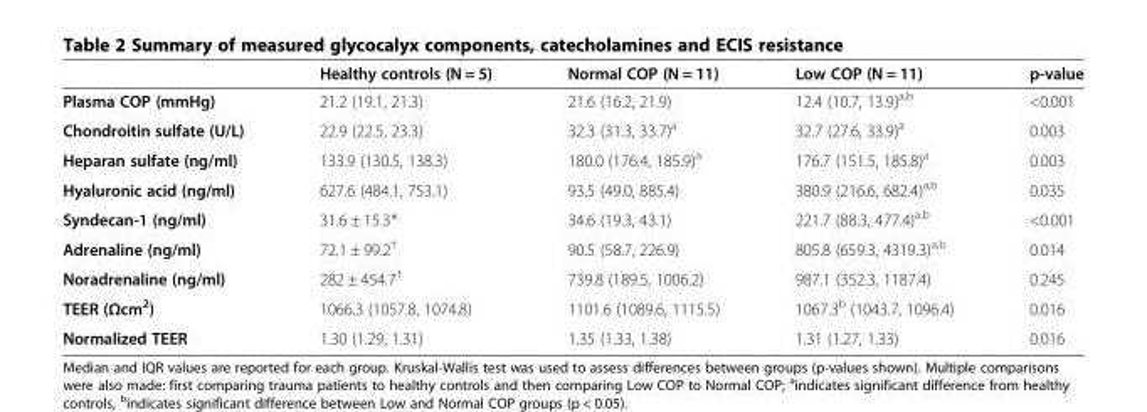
<table><thead><tr><td></td><td>Healthy controls (N = 5)</td><td>Normal COP (N = 11)</td><td>Low COP (N = 11)</td><td>p-value</td></tr></thead><tbody><tr><td>Plasma COP (mmHg)</td><td>21.2 (19.1, 21.3)</td><td>21.6 (16.2, 21.9)</td><td>12.4 (10.7, 13.9)<sup>a,b</sup></td><td>&lt;0.001</td></tr><tr><td>Chondroitin sulfate (U/L)</td><td>22.9 (22.5, 23.3)</td><td>32.3 (31.3, 33.7)<sup>a</sup></td><td>32.7 (27.6, 33.9)<sup>a</sup></td><td>0.003</td></tr><tr><td>Heparan sulfate (ng/ml)</td><td>133.9 (130.5, 138.3)</td><td>180.0 (176.4, 185.9)<sup>a</sup></td><td>176.7 (151.5, 185.8)<sup>a</sup></td><td>0.003</td></tr><tr><td>Hyaluronic acid (ng/ml)</td><td>627.6 (484.1, 753.1)</td><td>93.5 (49.0, 885.4)</td><td>380.9 (216.6, 682.4)<sup>a,b</sup></td><td>0.035</td></tr><tr><td>Syndecan-1 (ng/ml)</td><td>31.6 ± 15.3*</td><td>34.6 (19.3, 43.1)</td><td>221.7 (88.3, 477.4)<sup>a,b</sup></td><td>&lt;0.001</td></tr><tr><td>Adrenaline (ng/ml)</td><td>72.1 ± 99.2<sup>†</sup></td><td>90.5 (58.7, 226.9)</td><td>805.8 (659.3, 4319.3)<sup>a,b</sup></td><td>0.014</td></tr><tr><td>Noradrenaline (ng/ml)</td><td>282 ± 454.7<sup>†</sup></td><td>739.8 (189.5, 1006.2)</td><td>987.1 (352.3, 1187.4)</td><td>0.245</td></tr><tr><td>TEER (Ωcm<sup>2</sup>)</td><td>1066.3 (1057.8, 1074.8)</td><td>1101.6 (1089.6, 1115.5)</td><td>1067.3<sup>b</sup> (1043.7, 1096.4)</td><td>0.016</td></tr><tr><td>Normalized TEER</td><td>1.30 (1.29, 1.31)</td><td>1.35 (1.33, 1.38)</td><td>1.31 (1.27, 1.33)</td><td>0.016</td></tr></tbody></table>